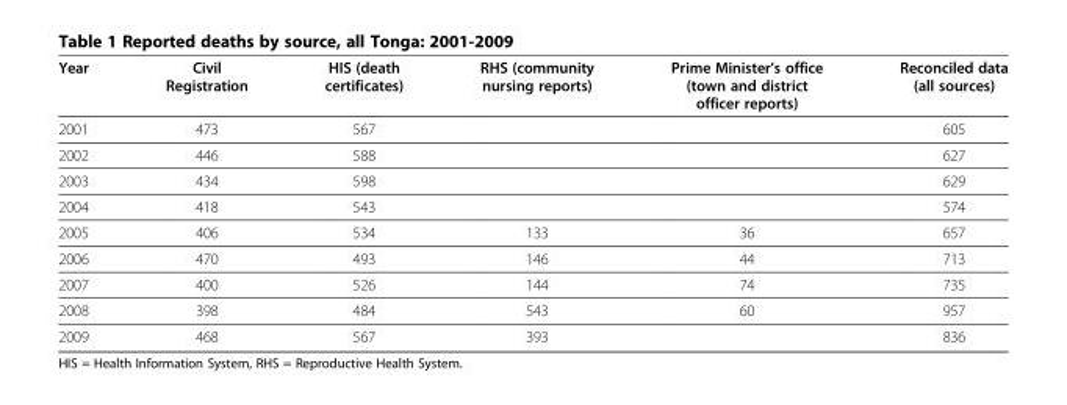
<table><thead><tr><td>Year</td><td>Civil Registration</td><td>HIS (death certificates)</td><td>RHS (community nursing reports)</td><td>Prime Minister’s office (town and district officer reports)</td><td>Reconciled data (all sources)</td></tr></thead><tbody><tr><td>2001</td><td>473</td><td>567</td><td></td><td></td><td>605</td></tr><tr><td>2002</td><td>446</td><td>588</td><td></td><td></td><td>627</td></tr><tr><td>2003</td><td>434</td><td>598</td><td></td><td></td><td>629</td></tr><tr><td>2004</td><td>418</td><td>543</td><td></td><td></td><td>574</td></tr><tr><td>2005</td><td>406</td><td>534</td><td>133</td><td>36</td><td>657</td></tr><tr><td>2006</td><td>470</td><td>493</td><td>146</td><td>44</td><td>713</td></tr><tr><td>2007</td><td>400</td><td>526</td><td>144</td><td>74</td><td>735</td></tr><tr><td>2008</td><td>398</td><td>484</td><td>543</td><td>60</td><td>957</td></tr><tr><td>2009</td><td>468</td><td>567</td><td>393</td><td></td><td>836</td></tr></tbody></table>